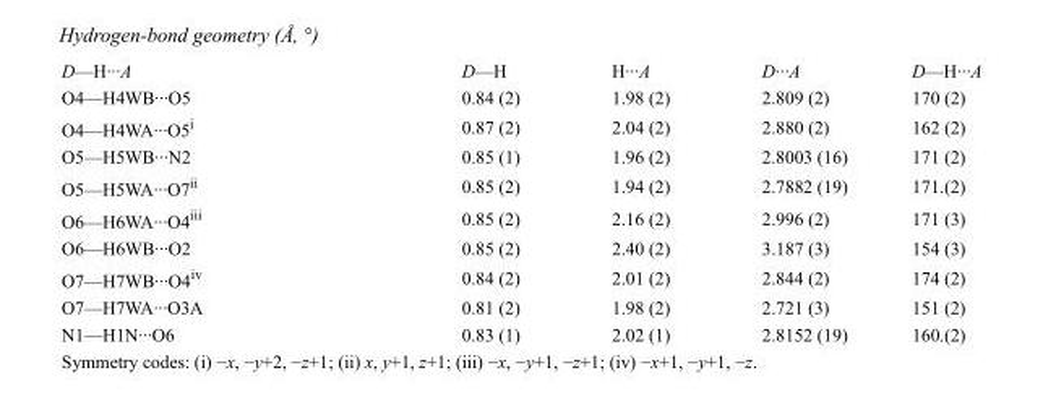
<table><tbody><tr><td>D—H···A</td><td>D—H</td><td>H···A</td><td>D···A</td><td>D—H···A</td></tr><tr><td>O4—H4WB···O5</td><td>0.84 (2)</td><td>1.98 (2)</td><td>2.809 (2)</td><td>170 (2)</td></tr><tr><td>O4—H4WA···O5<sup>i</sup></td><td>0.87 (2)</td><td>2.04 (2)</td><td>2.880 (2)</td><td>162 (2)</td></tr><tr><td>O5—H5WB···N2</td><td>0.85 (1)</td><td>1.96 (2)</td><td>2.8003 (16)</td><td>171 (2)</td></tr><tr><td>O5—H5WA···O7<sup>ii</sup></td><td>0.85 (2)</td><td>1.94 (2)</td><td>2.7882 (19)</td><td>171.(2)</td></tr><tr><td>O6—H6WA···O4<sup>iii</sup></td><td>0.85 (2)</td><td>2.16 (2)</td><td>2.996 (2)</td><td>171 (3)</td></tr><tr><td>O6—H6WB···O2</td><td>0.85 (2)</td><td>2.40 (2)</td><td>3.187 (3)</td><td>154 (3)</td></tr><tr><td>O7—H7WB···O4<sup>iv</sup></td><td>0.84 (2)</td><td>2.01 (2)</td><td>2.844 (2)</td><td>174 (2)</td></tr><tr><td>O7—H7WA···O3A</td><td>0.81 (2)</td><td>1.98 (2)</td><td>2.721 (3)</td><td>151 (2)</td></tr><tr><td>N1—H1N···O6</td><td>0.83 (1)</td><td>2.02 (1)</td><td>2.8152 (19)</td><td>160.(2)</td></tr></tbody></table>